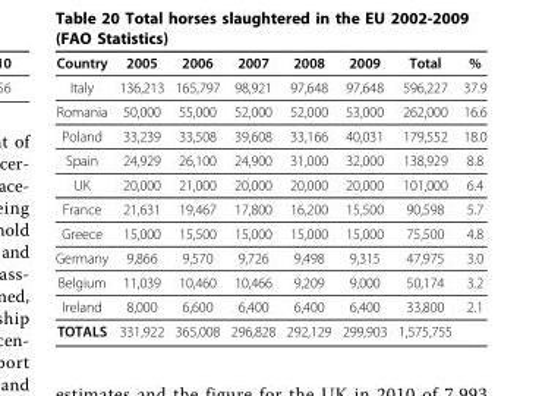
<table><thead><tr><td>Country</td><td>2005</td><td>2006</td><td>2007</td><td>2008</td><td>2009</td><td>Total</td><td>%</td></tr></thead><tbody><tr><td>Italy</td><td>136,213</td><td>165,797</td><td>98,921</td><td>97,648</td><td>97,648</td><td>596,227</td><td>37.9</td></tr><tr><td>Romania</td><td>50,000</td><td>55,000</td><td>52,000</td><td>52,000</td><td>53,000</td><td>262,000</td><td>16.6</td></tr><tr><td>Poland</td><td>33,239</td><td>33,508</td><td>39,608</td><td>33,166</td><td>40,031</td><td>179,552</td><td>18.0</td></tr><tr><td>Spain</td><td>24,929</td><td>26,100</td><td>24,900</td><td>31,000</td><td>32,000</td><td>138,929</td><td>8.8</td></tr><tr><td>UK</td><td>20,000</td><td>21,000</td><td>20,000</td><td>20,000</td><td>20,000</td><td>101,000</td><td>6.4</td></tr><tr><td>France</td><td>21,631</td><td>19,467</td><td>17,800</td><td>16,200</td><td>15,500</td><td>90,598</td><td>5.7</td></tr><tr><td>Greece</td><td>15,000</td><td>15,500</td><td>15,000</td><td>15,000</td><td>15,000</td><td>75,500</td><td>4.8</td></tr><tr><td>Germany</td><td>9,866</td><td>9,570</td><td>9,726</td><td>9,498</td><td>9,315</td><td>47,975</td><td>3.0</td></tr><tr><td>Belgium</td><td>11,039</td><td>10,460</td><td>10,466</td><td>9,209</td><td>9,000</td><td>50,174</td><td>3.2</td></tr><tr><td>Ireland</td><td>8,000</td><td>6,600</td><td>6,400</td><td>6,400</td><td>6,400</td><td>33,800</td><td>2.1</td></tr><tr><td>TOTALS</td><td>331,922</td><td>365,008</td><td>296,828</td><td>292,129</td><td>299,903</td><td>1,575,755</td><td></td></tr></tbody></table>